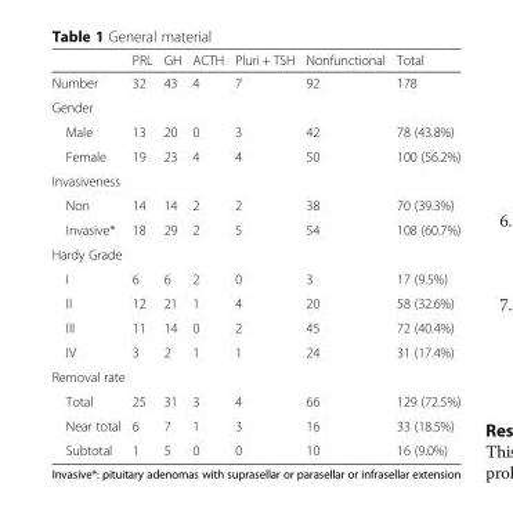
<table><thead><tr><td></td><td>PRL</td><td>GH</td><td>ACTH</td><td>Pluri + TSH</td><td>Nonfunctional</td><td>Total</td></tr></thead><tbody><tr><td>Number</td><td>32</td><td>43</td><td>4</td><td>7</td><td>92</td><td>178</td></tr><tr><td colspan="7">Gender</td></tr><tr><td>Male</td><td>13</td><td>20</td><td>0</td><td>3</td><td>42</td><td>78 (43.8%)</td></tr><tr><td>Female</td><td>19</td><td>23</td><td>4</td><td>4</td><td>50</td><td>100 (56.2%)</td></tr><tr><td colspan="7">Invasiveness</td></tr><tr><td>Non</td><td>14</td><td>14</td><td>2</td><td>2</td><td>38</td><td>70 (39.3%)</td></tr><tr><td>Invasive*</td><td>18</td><td>29</td><td>2</td><td>5</td><td>54</td><td>108 (60.7%)</td></tr><tr><td colspan="7">Hardy Grade</td></tr><tr><td>I</td><td>6</td><td>6</td><td>2</td><td>0</td><td>3</td><td>17 (9.5%)</td></tr><tr><td>II</td><td>12</td><td>21</td><td>1</td><td>4</td><td>20</td><td>58 (32.6%)</td></tr><tr><td>III</td><td>11</td><td>14</td><td>0</td><td>2</td><td>45</td><td>72 (40.4%)</td></tr><tr><td>IV</td><td>3</td><td>2</td><td>1</td><td>1</td><td>24</td><td>31 (17.4%)</td></tr><tr><td colspan="7">Removal rate</td></tr><tr><td>Total</td><td>25</td><td>31</td><td>3</td><td>4</td><td>66</td><td>129 (72.5%)</td></tr><tr><td>Near total</td><td>6</td><td>7</td><td>1</td><td>3</td><td>16</td><td>33 (18.5%)</td></tr><tr><td>Subtotal</td><td>1</td><td>5</td><td>0</td><td>0</td><td>10</td><td>16 (9.0%)</td></tr></tbody></table>